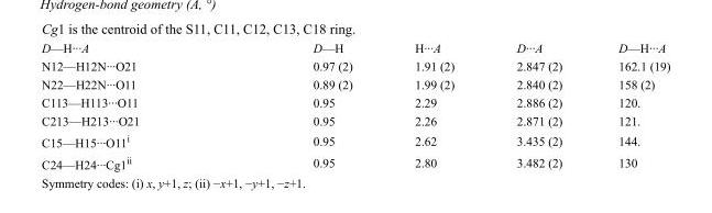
<table><tbody><tr><td>D—H···A</td><td>D—H</td><td>H···A</td><td>D···A</td><td>D—H···A</td></tr><tr><td>N12—H12N···O21</td><td>0.97 (2)</td><td>1.91 (2)</td><td>2.847 (2)</td><td>162.1 (19)</td></tr><tr><td>N22—H22N···O11</td><td>0.89 (2)</td><td>1.99 (2)</td><td>2.840 (2)</td><td>158 (2)</td></tr><tr><td>C113—H113···O11</td><td>0.95</td><td>2.29</td><td>2.886 (2)</td><td>120.</td></tr><tr><td>C213—H213···O21</td><td>0.95</td><td>2.26</td><td>2.871 (2)</td><td>121.</td></tr><tr><td>C15—H15···O11<sup>i</sup></td><td>0.95</td><td>2.62</td><td>3.435 (2)</td><td>144.</td></tr><tr><td>C24—H24···Cg1<sup>ii</sup></td><td>0.95</td><td>2.80</td><td>3.482 (2)</td><td>130</td></tr></tbody></table>